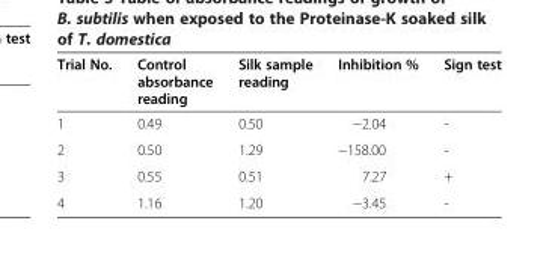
<table><thead><tr><td>Trial No.</td><td>Control absorbance reading</td><td>Silk sample reading</td><td>Inhibition %</td><td>Sign test</td></tr></thead><tbody><tr><td>1</td><td>0.49</td><td>0.50</td><td>−2.04</td><td>-</td></tr><tr><td>2</td><td>0.50</td><td>1.29</td><td>−158.00</td><td>-</td></tr><tr><td>3</td><td>0.55</td><td>0.51</td><td>7.27</td><td>+</td></tr><tr><td>4</td><td>1.16</td><td>1.20</td><td>−3.45</td><td>-</td></tr></tbody></table>